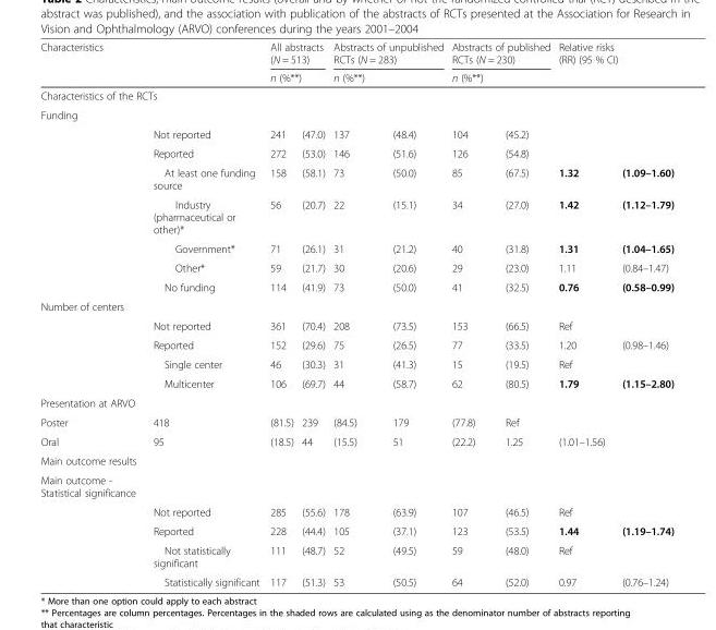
<table><thead><tr><td rowspan="2" colspan="2">Characteristics</td><td rowspan="2" colspan="2">All abstracts (N = 513) n (%**)</td><td rowspan="2" colspan="2">Abstracts of unpublished RCTs (N = 283) n (%**)</td><td rowspan="2" colspan="2">Abstracts of published RCTs (N = 230) n (%**)</td><td rowspan="2" colspan="2">Relative risks (RR) (95 % CI)</td></tr><tr></tr><tr><td colspan="10">Characteristics of the RCTs</td></tr><tr><td>Funding</td><td></td><td></td><td></td><td></td><td></td><td></td><td></td><td></td><td></td></tr></thead><tbody><tr><td></td><td>Not reported</td><td>241</td><td>(47.0)</td><td>137</td><td>(48.4)</td><td>104</td><td>(45.2)</td><td></td><td></td></tr><tr><td></td><td>Reported</td><td>272</td><td>(53.0)</td><td>146</td><td>(51.6)</td><td>126</td><td>(54.8)</td><td></td><td></td></tr><tr><td></td><td>At least one funding source</td><td>158</td><td>(58.1)</td><td>73</td><td>(50.0)</td><td>85</td><td>(67.5)</td><td>1.32</td><td>(1.09–1.60)</td></tr><tr><td></td><td>Industry (pharmaceutical or other)*</td><td>56</td><td>(20.7)</td><td>22</td><td>(15.1)</td><td>34</td><td>(27.0)</td><td>1.42</td><td>(1.12–1.79)</td></tr><tr><td></td><td>Government*</td><td>71</td><td>(26.1)</td><td>31</td><td>(21.2)</td><td>40</td><td>(31.8)</td><td>1.31</td><td>(1.04–1.65)</td></tr><tr><td></td><td>Other*</td><td>59</td><td>(21.7)</td><td>30</td><td>(20.6)</td><td>29</td><td>(23.0)</td><td>1.11</td><td>(0.84–1.47)</td></tr><tr><td></td><td>No funding</td><td>114</td><td>(41.9)</td><td>73</td><td>(50.0)</td><td>41</td><td>(32.5)</td><td>0.76</td><td>(0.58–0.99)</td></tr><tr><td colspan="10">Number of centers</td></tr><tr><td></td><td>Not reported</td><td>361</td><td>(70.4)</td><td>208</td><td>(73.5)</td><td>153</td><td>(66.5)</td><td>Ref</td><td></td></tr><tr><td></td><td>Reported</td><td>152</td><td>(29.6)</td><td>75</td><td>(26.5)</td><td>77</td><td>(33.5)</td><td>1.20</td><td>(0.98–1.46)</td></tr><tr><td></td><td>Single center</td><td>46</td><td>(30.3)</td><td>31</td><td>(41.3)</td><td>15</td><td>(19.5)</td><td>Ref</td><td></td></tr><tr><td></td><td>Multicenter</td><td>106</td><td>(69.7)</td><td>44</td><td>(58.7)</td><td>62</td><td>(80.5)</td><td>1.79</td><td>(1.15–2.80)</td></tr><tr><td colspan="10">Presentation at ARVO</td></tr><tr><td>Poster</td><td>418</td><td>(81.5)</td><td>239</td><td>(84.5)</td><td>179</td><td>(77.8)</td><td>Ref</td><td></td><td></td></tr><tr><td>Oral</td><td>95</td><td>(18.5)</td><td>44</td><td>(15.5)</td><td>51</td><td>(22.2)</td><td>1.25</td><td>(1.01–1.56)</td><td></td></tr><tr><td colspan="10">Main outcome results</td></tr><tr><td colspan="10">Main outcome - Statistical significance</td></tr><tr><td></td><td>Not reported</td><td>285</td><td>(55.6)</td><td>178</td><td>(63.9)</td><td>107</td><td>(46.5)</td><td>Ref</td><td></td></tr><tr><td></td><td>Reported</td><td>228</td><td>(44.4)</td><td>105</td><td>(37.1)</td><td>123</td><td>(53.5)</td><td>1.44</td><td>(1.19–1.74)</td></tr><tr><td></td><td>Not statistically significant</td><td>111</td><td>(48.7)</td><td>52</td><td>(49.5)</td><td>59</td><td>(48.0)</td><td>Ref</td><td></td></tr><tr><td></td><td>Statistically significant</td><td>117</td><td>(51.3)</td><td>53</td><td>(50.5)</td><td>64</td><td>(52.0)</td><td>0.97</td><td>(0.76–1.24)</td></tr></tbody></table>